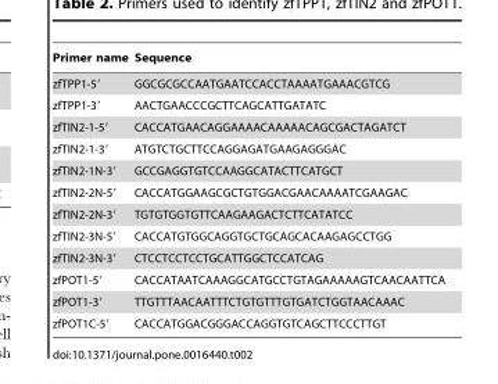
<table><thead><tr><td>Primer name</td><td>Sequence</td></tr></thead><tbody><tr><td>zfTPP1-5′</td><td>GGCGCGCCAATGAATCCACCTAAAATGAAACGTCG</td></tr><tr><td>zfTPP1-3′</td><td>AACTGAACCCGCTTCAGCATTGATATC</td></tr><tr><td>zfTIN2-1-5′</td><td>CACCATGAACAGGAAAACAAAAACAGCGACTAGATCT</td></tr><tr><td>zfTIN2-1-3′</td><td>ATGTCTGCTTCCAGGAGATGAAGAGGGAC</td></tr><tr><td>zfTIN2-1N-3′</td><td>GCCGAGGTGTCCAAGGCATACTTCATGCT</td></tr><tr><td>zfTIN2-2N-5′</td><td>CACCATGGAAGCGCTGTGGACGAACAAAATCGAAGAC</td></tr><tr><td>zfTIN2-2N-3′</td><td>TGTGTGGTGTTCAAGAAGACTCTTCATATCC</td></tr><tr><td>zfTIN2-3N-5′</td><td>CACCATGTGGCAGGTGCTGCAGCACAAGAGCCTGG</td></tr><tr><td>zfTIN2-3N-3′</td><td>CTCCTCCTCCTGCATTGGCTCCATCAG</td></tr><tr><td>zfPOT1-5′</td><td>CACCATAATCAAAGGCATGCCTGTAGAAAAAGTCAACAATTCA</td></tr><tr><td>zfPOT1-3′</td><td>TTGTTTAACAATTTCTGTGTTTGTGATCTGGTAACAAAC</td></tr><tr><td>zfPOT1C-5′</td><td>CACCATGGACGGGACCAGGTGTCAGCTTCCCTTGT</td></tr></tbody></table>